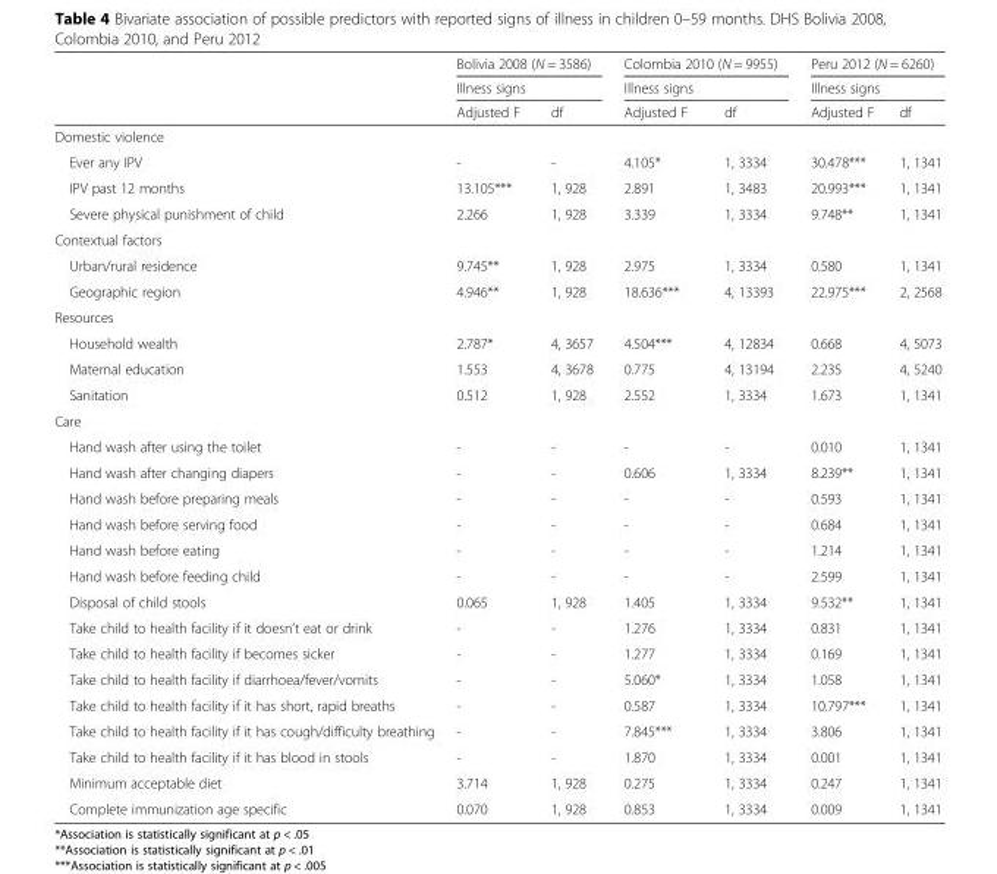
<table><thead><tr><td rowspan="3"></td><td rowspan="2" colspan="2">Bolivia 2008 (N = 3586) Illness signs</td><td rowspan="2" colspan="2">Colombia 2010 (N = 9955) Illness signs</td><td rowspan="2" colspan="2">Peru 2012 (N = 6260) Illness signs</td></tr><tr></tr><tr><td>Adjusted F</td><td>df</td><td>Adjusted F</td><td>df</td><td>Adjusted F</td><td>df</td></tr></thead><tbody><tr><td colspan="7">Domestic violence</td></tr><tr><td>Ever any IPV</td><td>-</td><td>-</td><td>4.105*</td><td>1, 3334</td><td>30.478***</td><td>1, 1341</td></tr><tr><td>IPV past 12 months</td><td>13.105***</td><td>1, 928</td><td>2.891</td><td>1, 3483</td><td>20.993***</td><td>1, 1341</td></tr><tr><td>Severe physical punishment of child</td><td>2.266</td><td>1, 928</td><td>3.339</td><td>1, 3334</td><td>9.748**</td><td>1, 1341</td></tr><tr><td colspan="7">Contextual factors</td></tr><tr><td>Urban/rural residence</td><td>9.745**</td><td>1, 928</td><td>2.975</td><td>1, 3334</td><td>0.580</td><td>1, 1341</td></tr><tr><td>Geographic region</td><td>4.946**</td><td>1, 928</td><td>18.636***</td><td>4, 13393</td><td>22.975***</td><td>2, 2568</td></tr><tr><td colspan="7">Resources</td></tr><tr><td>Household wealth</td><td>2.787*</td><td>4, 3657</td><td>4.504***</td><td>4, 12834</td><td>0.668</td><td>4, 5073</td></tr><tr><td>Maternal education</td><td>1.553</td><td>4, 3678</td><td>0.775</td><td>4, 13194</td><td>2.235</td><td>4, 5240</td></tr><tr><td>Sanitation</td><td>0.512</td><td>1, 928</td><td>2.552</td><td>1, 3334</td><td>1.673</td><td>1, 1341</td></tr><tr><td colspan="7">Care</td></tr><tr><td>Hand wash after using the toilet</td><td>-</td><td>-</td><td>-</td><td>-</td><td>0.010</td><td>1, 1341</td></tr><tr><td>Hand wash after changing diapers</td><td>-</td><td>-</td><td>0.606</td><td>1, 3334</td><td>8.239**</td><td>1, 1341</td></tr><tr><td>Hand wash before preparing meals</td><td>-</td><td>-</td><td>-</td><td>-</td><td>0.593</td><td>1, 1341</td></tr><tr><td>Hand wash before serving food</td><td>-</td><td>-</td><td>-</td><td>-</td><td>0.684</td><td>1, 1341</td></tr><tr><td>Hand wash before eating</td><td>-</td><td>-</td><td>-</td><td>-</td><td>1.214</td><td>1, 1341</td></tr><tr><td>Hand wash before feeding child</td><td>-</td><td>-</td><td>-</td><td>-</td><td>2.599</td><td>1, 1341</td></tr><tr><td>Disposal of child stools</td><td>0.065</td><td>1, 928</td><td>1.405</td><td>1, 3334</td><td>9.532**</td><td>1, 1341</td></tr><tr><td>Take child to health facility if it doesn’t eat or drink</td><td>-</td><td>-</td><td>1.276</td><td>1, 3334</td><td>0.831</td><td>1, 1341</td></tr><tr><td>Take child to health facility if becomes sicker</td><td>-</td><td>-</td><td>1.277</td><td>1, 3334</td><td>0.169</td><td>1, 1341</td></tr><tr><td>Take child to health facility if diarrhoea/fever/vomits</td><td>-</td><td>-</td><td>5.060*</td><td>1, 3334</td><td>1.058</td><td>1, 1341</td></tr><tr><td>Take child to health facility if it has short, rapid breaths</td><td>-</td><td>-</td><td>0.587</td><td>1, 3334</td><td>10.797***</td><td>1, 1341</td></tr><tr><td>Take child to health facility if it has cough/difficulty breathing</td><td>-</td><td>-</td><td>7.845***</td><td>1, 3334</td><td>3.806</td><td>1, 1341</td></tr><tr><td>Take child to health facility if it has blood in stools</td><td>-</td><td>-</td><td>1.870</td><td>1, 3334</td><td>0.001</td><td>1, 1341</td></tr><tr><td>Minimum acceptable diet</td><td>3.714</td><td>1, 928</td><td>0.275</td><td>1, 3334</td><td>0.247</td><td>1, 1341</td></tr><tr><td>Complete immunization age specific</td><td>0.070</td><td>1, 928</td><td>0.853</td><td>1, 3334</td><td>0.009</td><td>1, 1341</td></tr></tbody></table>